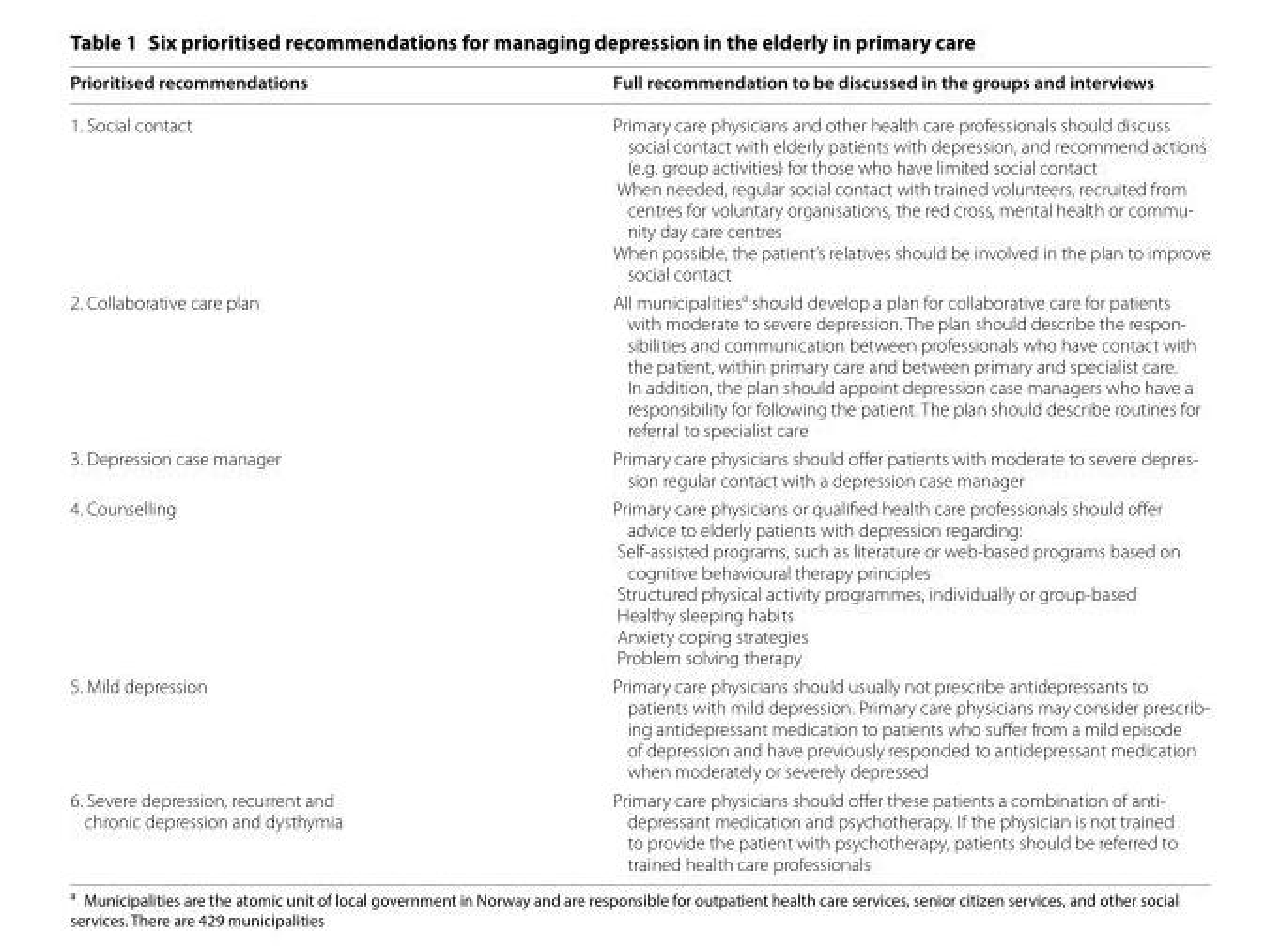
<table><thead><tr><td>Prioritised recommendations</td><td>Full recommendation to be discussed in the groups and interviews</td></tr></thead><tbody><tr><td>1. Social contact</td><td>Primary care physicians and other health care professionals should discuss social contact with elderly patients with depression, and recommend actions (e.g. group activities) for those who have limited social contact When needed, regular social contact with trained volunteers, recruited from centres for voluntary organisations, the red cross, mental health or commu- nity day care centres When possible, the patient’s relatives should be involved in the plan to improve social contact</td></tr><tr><td>2. Collaborative care plan</td><td>All municipalitiesa should develop a plan for collaborative care for patients with moderate to severe depression. The plan should describe the respon- sibilities and communication between professionals who have contact with the patient, within primary care and between primary and specialist care. In addition, the plan should appoint depression case managers who have a responsibility for following the patient. The plan should describe routines for referral to specialist care</td></tr><tr><td>3. Depression case manager</td><td>Primary care physicians should offer patients with moderate to severe depres- sion regular contact with a depression case manager</td></tr><tr><td>4. Counselling</td><td>Primary care physicians or qualified health care professionals should offer advice to elderly patients with depression regarding: Self-assisted programs, such as literature or web-based programs based on cognitive behavioural therapy principles Structured physical activity programmes, individually or group-based Healthy sleeping habits Anxiety coping strategies Problem solving therapy</td></tr><tr><td>5. Mild depression</td><td>Primary care physicians should usually not prescribe antidepressants to patients with mild depression. Primary care physicians may consider prescrib- ing antidepressant medication to patients who suffer from a mild episode of depression and have previously responded to antidepressant medication when moderately or severely depressed</td></tr><tr><td>6. Severe depression, recurrent and chronic depression and dysthymia</td><td>Primary care physicians should offer these patients a combination of anti- depressant medication and psychotherapy. If the physician is not trained to provide the patient with psychotherapy, patients should be referred to trained health care professionals</td></tr></tbody></table>